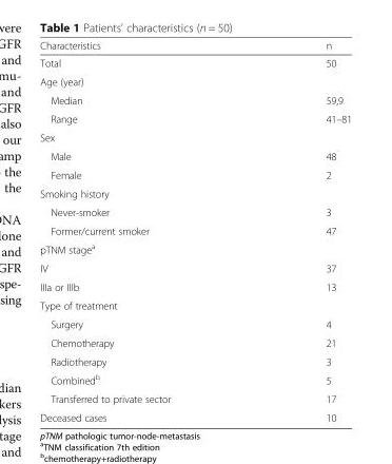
<table><thead><tr><td>Characteristics</td><td>n</td></tr></thead><tbody><tr><td>Total</td><td>50</td></tr><tr><td colspan="2">Age (year)</td></tr><tr><td>Median</td><td>59,9</td></tr><tr><td>Range</td><td>41–81</td></tr><tr><td colspan="2">Sex</td></tr><tr><td>Male</td><td>48</td></tr><tr><td>Female</td><td>2</td></tr><tr><td colspan="2">Smoking history</td></tr><tr><td>Never-smoker</td><td>3</td></tr><tr><td>Former/current smoker</td><td>47</td></tr><tr><td colspan="2">pTNM stage<sup>a</sup></td></tr><tr><td>IV</td><td>37</td></tr><tr><td>IIIa or IIIb</td><td>13</td></tr><tr><td colspan="2">Type of treatment</td></tr><tr><td>Surgery</td><td>4</td></tr><tr><td>Chemotherapy</td><td>21</td></tr><tr><td>Radiotherapy</td><td>3</td></tr><tr><td>Combined<sup>b</sup></td><td>5</td></tr><tr><td>Transferred to private sector</td><td>17</td></tr><tr><td>Deceased cases</td><td>10</td></tr></tbody></table>